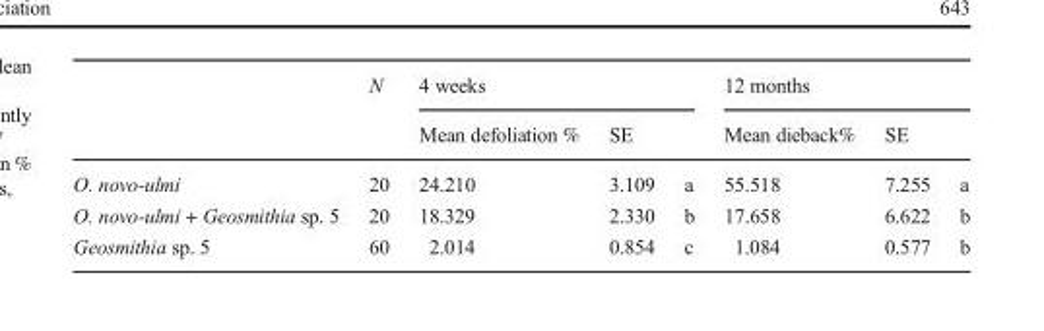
<table><thead><tr><td rowspan="2"></td><td rowspan="2">N</td><td colspan="3">4 weeks</td><td colspan="3">12 months</td></tr><tr><td>Mean defoliation %</td><td>SE</td><td></td><td>Mean dieback%</td><td>SE</td><td></td></tr></thead><tbody><tr><td>O. novo-ulmi</td><td>20</td><td>24.210</td><td>3.109</td><td>a</td><td>55.518</td><td>7.255</td><td>a</td></tr><tr><td>O. novo-ulmi + Geosmithia sp. 5</td><td>20</td><td>18.329</td><td>2.330</td><td>b</td><td>17.658</td><td>6.622</td><td>b</td></tr><tr><td>Geosmithia sp. 5</td><td>60</td><td>2.014</td><td>0.854</td><td>c</td><td>1.084</td><td>0.577</td><td>b</td></tr></tbody></table>